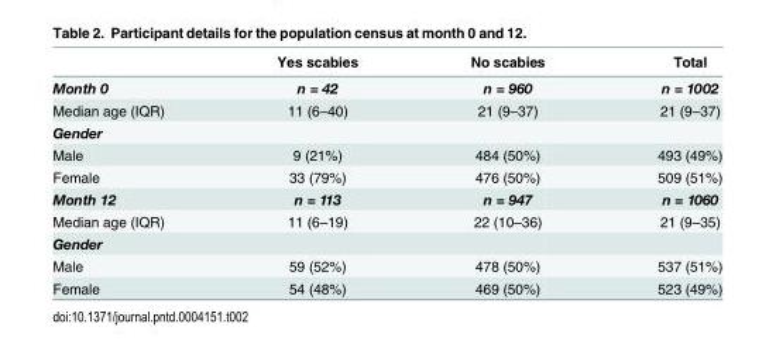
<table><thead><tr><td></td><td>Yes scabies</td><td>No scabies</td><td>Total</td></tr></thead><tbody><tr><td>Month 0</td><td>n = 42</td><td>n = 960</td><td>n = 1002</td></tr><tr><td>Median age (IQR)</td><td>11 (6–40)</td><td>21 (9–37)</td><td>21 (9–37)</td></tr><tr><td colspan="4">Gender</td></tr><tr><td>Male</td><td>9 (21%)</td><td>484 (50%)</td><td>493 (49%)</td></tr><tr><td>Female</td><td>33 (79%)</td><td>476 (50%)</td><td>509 (51%)</td></tr><tr><td>Month 12</td><td>n = 113</td><td>n = 947</td><td>n = 1060</td></tr><tr><td>Median age (IQR)</td><td>11 (6–19)</td><td>22 (10–36)</td><td>21 (9–35)</td></tr><tr><td colspan="4">Gender</td></tr><tr><td>Male</td><td>59 (52%)</td><td>478 (50%)</td><td>537 (51%)</td></tr><tr><td>Female</td><td>54 (48%)</td><td>469 (50%)</td><td>523 (49%)</td></tr></tbody></table>